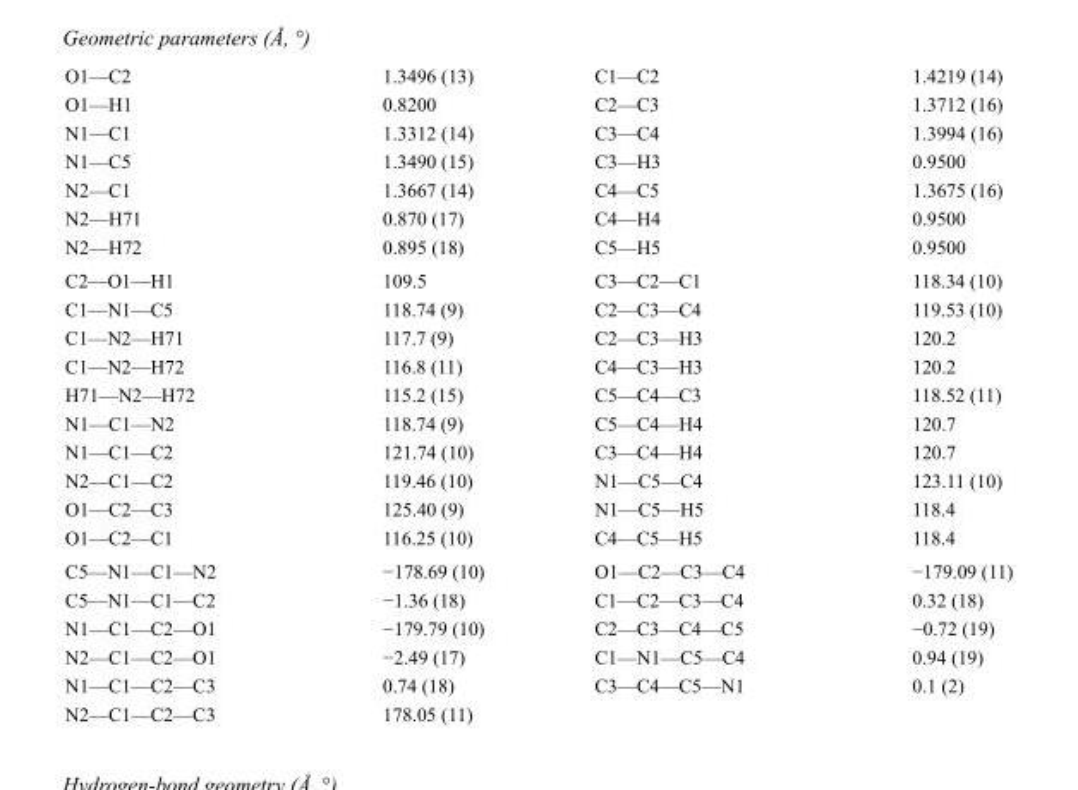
<table><tbody><tr><td>O1—C2</td><td>1.3496 (13)</td><td>C1—C2</td><td>1.4219 (14)</td></tr><tr><td>O1—H1</td><td>0.8200</td><td>C2—C3</td><td>1.3712 (16)</td></tr><tr><td>N1—C1</td><td>1.3312 (14)</td><td>C3—C4</td><td>1.3994 (16)</td></tr><tr><td>N1—C5</td><td>1.3490 (15)</td><td>C3—H3</td><td>0.9500</td></tr><tr><td>N2—C1</td><td>1.3667 (14)</td><td>C4—C5</td><td>1.3675 (16)</td></tr><tr><td>N2—H71</td><td>0.870 (17)</td><td>C4—H4</td><td>0.9500</td></tr><tr><td>N2—H72</td><td>0.895 (18)</td><td>C5—H5</td><td>0.9500</td></tr><tr><td>C2—O1—H1</td><td>109.5</td><td>C3—C2—C1</td><td>118.34 (10)</td></tr><tr><td>C1—N1—C5</td><td>118.74 (9)</td><td>C2—C3—C4</td><td>119.53 (10)</td></tr><tr><td>C1—N2—H71</td><td>117.7 (9)</td><td>C2—C3—H3</td><td>120.2</td></tr><tr><td>C1—N2—H72</td><td>116.8 (11)</td><td>C4—C3—H3</td><td>120.2</td></tr><tr><td>H71—N2—H72</td><td>115.2 (15)</td><td>C5—C4—C3</td><td>118.52 (11)</td></tr><tr><td>N1—C1—N2</td><td>118.74 (9)</td><td>C5—C4—H4</td><td>120.7</td></tr><tr><td>N1—C1—C2</td><td>121.74 (10)</td><td>C3—C4—H4</td><td>120.7</td></tr><tr><td>N2—C1—C2</td><td>119.46 (10)</td><td>N1—C5—C4</td><td>123.11 (10)</td></tr><tr><td>O1—C2—C3</td><td>125.40 (9)</td><td>N1—C5—H5</td><td>118.4</td></tr><tr><td>O1—C2—C1</td><td>116.25 (10)</td><td>C4—C5—H5</td><td>118.4</td></tr><tr><td>C5—N1—C1—N2</td><td>−178.69 (10)</td><td>O1—C2—C3—C4</td><td>−179.09 (11)</td></tr><tr><td>C5—N1—C1—C2</td><td>−1.36 (18)</td><td>C1—C2—C3—C4</td><td>0.32 (18)</td></tr><tr><td>N1—C1—C2—O1</td><td>−179.79 (10)</td><td>C2—C3—C4—C5</td><td>−0.72 (19)</td></tr><tr><td>N2—C1—C2—O1</td><td>−2.49 (17)</td><td>C1—N1—C5—C4</td><td>0.94 (19)</td></tr><tr><td>N1—C1—C2—C3</td><td>0.74 (18)</td><td>C3—C4—C5—N1</td><td>0.1 (2)</td></tr><tr><td>N2—C1—C2—C3</td><td>178.05 (11)</td><td></td><td></td></tr></tbody></table>